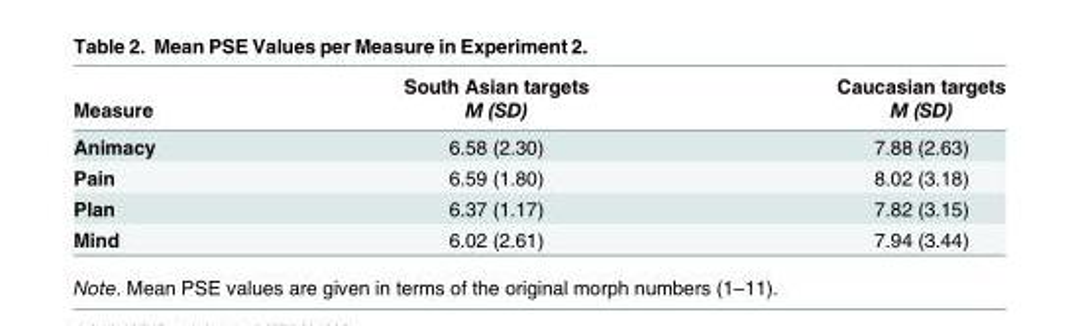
<table><thead><tr><td rowspan="2">Measure</td><td rowspan="2">South Asian targets M (SD)</td><td rowspan="2">Caucasian targets M (SD)</td></tr><tr></tr></thead><tbody><tr><td>Animacy</td><td>6.58 (2.30)</td><td>7.88 (2.63)</td></tr><tr><td>Pain</td><td>6.59 (1.80)</td><td>8.02 (3.18)</td></tr><tr><td>Plan</td><td>6.37 (1.17)</td><td>7.82 (3.15)</td></tr><tr><td>Mind</td><td>6.02 (2.61)</td><td>7.94 (3.44)</td></tr></tbody></table>